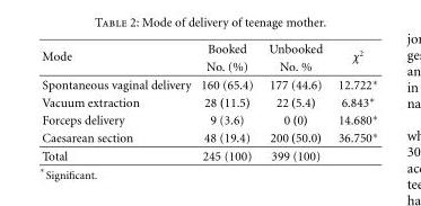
<table><thead><tr><td rowspan="2">Mode</td><td rowspan="2">Booked No. (%)</td><td rowspan="2">Unbooked No. %</td><td rowspan="2">χ<sup>2</sup></td></tr><tr></tr></thead><tbody><tr><td>Spontaneous vaginal delivery</td><td>160 (65.4)</td><td>177 (44.6)</td><td>12.722∗</td></tr><tr><td>Vacuum extraction</td><td>28 (11.5)</td><td>22 (5.4)</td><td>6.843∗</td></tr><tr><td>Forceps delivery</td><td>9 (3.6)</td><td>0 (0)</td><td>14.680∗</td></tr><tr><td>Caesarean section</td><td>48 (19.4)</td><td>200 (50.0)</td><td>36.750∗</td></tr><tr><td>Total</td><td>245 (100)</td><td>399 (100)</td><td></td></tr></tbody></table>